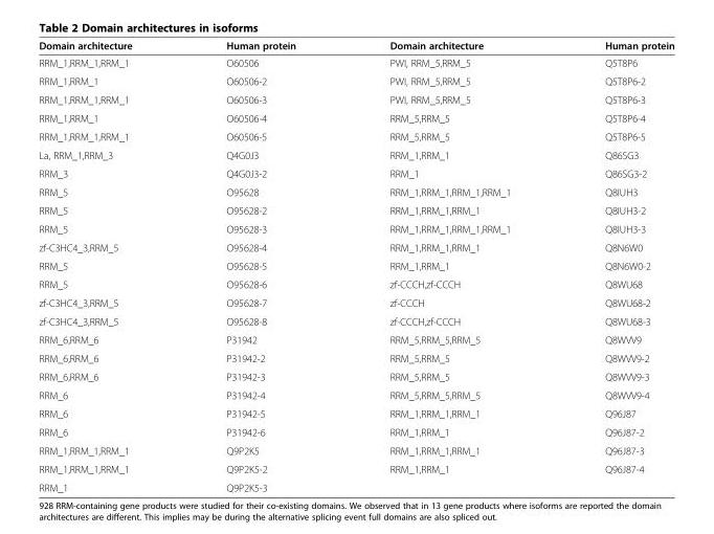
<table><thead><tr><td>Domain architecture</td><td>Human protein</td><td>Domain architecture</td><td>Human protein</td></tr></thead><tbody><tr><td>RRM_1,RRM_1,RRM_1</td><td>O60506</td><td>PWI, RRM_5,RRM_5</td><td>Q5T8P6</td></tr><tr><td>RRM_1,RRM_1</td><td>O60506-2</td><td>PWI, RRM_5,RRM_5</td><td>Q5T8P6-2</td></tr><tr><td>RRM_1,RRM_1,RRM_1</td><td>O60506-3</td><td>PWI, RRM_5,RRM_5</td><td>Q5T8P6-3</td></tr><tr><td>RRM_1,RRM_1</td><td>O60506-4</td><td>RRM_5,RRM_5</td><td>Q5T8P6-4</td></tr><tr><td>RRM_1,RRM_1,RRM_1</td><td>O60506-5</td><td>RRM_5,RRM_5</td><td>Q5T8P6-5</td></tr><tr><td>La, RRM_1,RRM_3</td><td>Q4G0J3</td><td>RRM_1,RRM_1</td><td>Q86SG3</td></tr><tr><td>RRM_3</td><td>Q4G0J3-2</td><td>RRM_1</td><td>Q86SG3-2</td></tr><tr><td>RRM_5</td><td>O95628</td><td>RRM_1,RRM_1,RRM_1,RRM_1</td><td>Q8IUH3</td></tr><tr><td>RRM_5</td><td>O95628-2</td><td>RRM_1,RRM_1,RRM_1</td><td>Q8IUH3-2</td></tr><tr><td>RRM_5</td><td>O95628-3</td><td>RRM_1,RRM_1,RRM_1,RRM_1</td><td>Q8IUH3-3</td></tr><tr><td>zf-C3HC4_3,RRM_5</td><td>O95628-4</td><td>RRM_1,RRM_1,RRM_1</td><td>Q8N6W0</td></tr><tr><td>RRM_5</td><td>O95628-5</td><td>RRM_1,RRM_1</td><td>Q8N6W0-2</td></tr><tr><td>RRM_5</td><td>O95628-6</td><td>zf-CCCH,zf-CCCH</td><td>Q8WU68</td></tr><tr><td>zf-C3HC4_3,RRM_5</td><td>O95628-7</td><td>zf-CCCH</td><td>Q8WU68-2</td></tr><tr><td>zf-C3HC4_3,RRM_5</td><td>O95628-8</td><td>zf-CCCH,zf-CCCH</td><td>Q8WU68-3</td></tr><tr><td>RRM_6,RRM_6</td><td>P31942</td><td>RRM_5,RRM_5,RRM_5</td><td>Q8WVV9</td></tr><tr><td>RRM_6,RRM_6</td><td>P31942-2</td><td>RRM_5,RRM_5</td><td>Q8WVV9-2</td></tr><tr><td>RRM_6,RRM_6</td><td>P31942-3</td><td>RRM_5,RRM_5</td><td>Q8WVV9-3</td></tr><tr><td>RRM_6</td><td>P31942-4</td><td>RRM_5,RRM_5,RRM_5</td><td>Q8WVV9-4</td></tr><tr><td>RRM_6</td><td>P31942-5</td><td>RRM_1,RRM_1,RRM_1</td><td>Q96J87</td></tr><tr><td>RRM_6</td><td>P31942-6</td><td>RRM_1,RRM_1</td><td>Q96J87-2</td></tr><tr><td>RRM_1,RRM_1,RRM_1</td><td>Q9P2K5</td><td>RRM_1,RRM_1,RRM_1</td><td>Q96J87-3</td></tr><tr><td>RRM_1,RRM_1,RRM_1</td><td>Q9P2K5-2</td><td>RRM_1,RRM_1</td><td>Q96J87-4</td></tr><tr><td>RRM_1</td><td>Q9P2K5-3</td><td></td><td></td></tr></tbody></table>